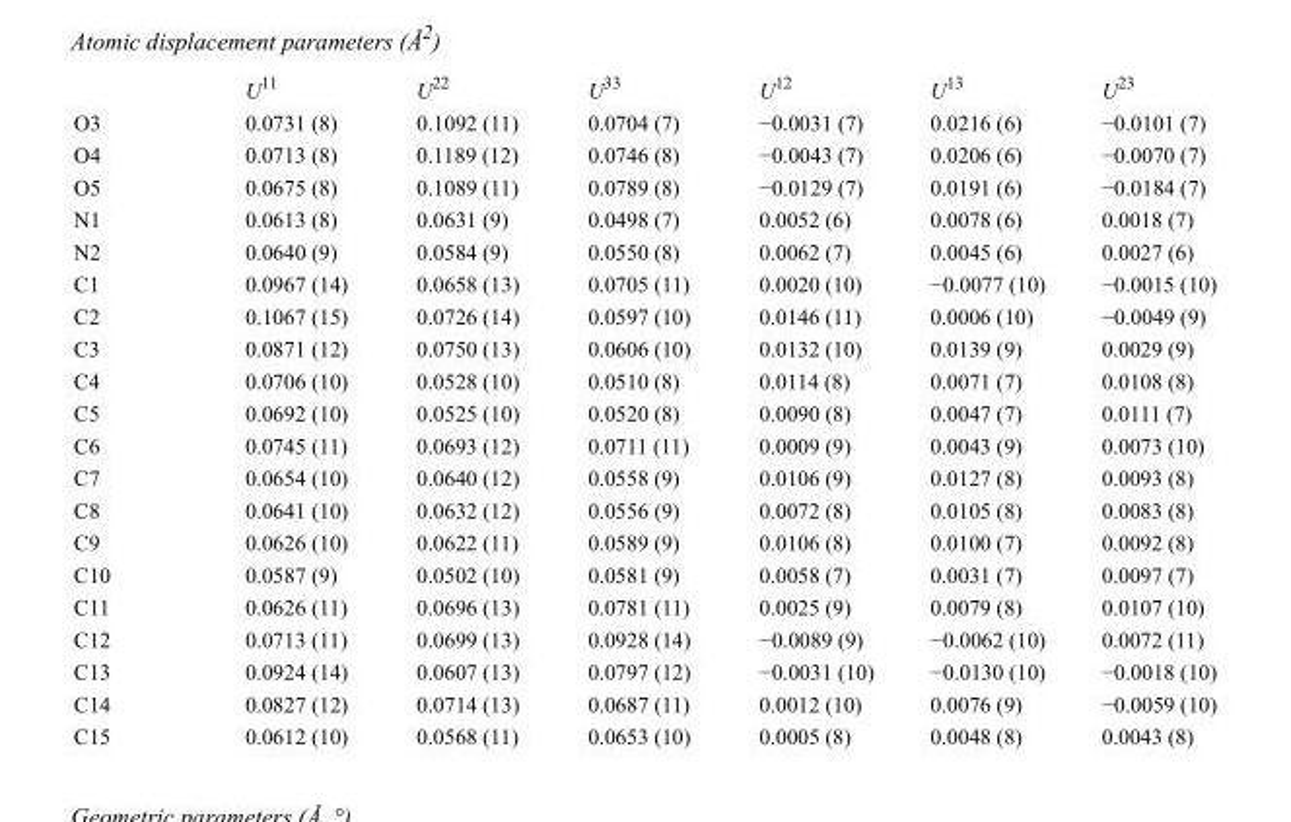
<table><thead><tr><td></td><td>U<sup>11</sup></td><td>U<sup>22</sup></td><td>U<sup>33</sup></td><td>U<sup>12</sup></td><td>U<sup>13</sup></td><td>U<sup>23</sup></td></tr></thead><tbody><tr><td>O3</td><td>0.0731 (8)</td><td>0.1092 (11)</td><td>0.0704 (7)</td><td>−0.0031 (7)</td><td>0.0216 (6)</td><td>−0.0101 (7)</td></tr><tr><td>O4</td><td>0.0713 (8)</td><td>0.1189 (12)</td><td>0.0746 (8)</td><td>−0.0043 (7)</td><td>0.0206 (6)</td><td>−0.0070 (7)</td></tr><tr><td>O5</td><td>0.0675 (8)</td><td>0.1089 (11)</td><td>0.0789 (8)</td><td>−0.0129 (7)</td><td>0.0191 (6)</td><td>−0.0184 (7)</td></tr><tr><td>N1</td><td>0.0613 (8)</td><td>0.0631 (9)</td><td>0.0498 (7)</td><td>0.0052 (6)</td><td>0.0078 (6)</td><td>0.0018 (7)</td></tr><tr><td>N2</td><td>0.0640 (9)</td><td>0.0584 (9)</td><td>0.0550 (8)</td><td>0.0062 (7)</td><td>0.0045 (6)</td><td>0.0027 (6)</td></tr><tr><td>C1</td><td>0.0967 (14)</td><td>0.0658 (13)</td><td>0.0705 (11)</td><td>0.0020 (10)</td><td>−0.0077 (10)</td><td>−0.0015 (10)</td></tr><tr><td>C2</td><td>0.1067 (15)</td><td>0.0726 (14)</td><td>0.0597 (10)</td><td>0.0146 (11)</td><td>0.0006 (10)</td><td>−0.0049 (9)</td></tr><tr><td>C3</td><td>0.0871 (12)</td><td>0.0750 (13)</td><td>0.0606 (10)</td><td>0.0132 (10)</td><td>0.0139 (9)</td><td>0.0029 (9)</td></tr><tr><td>C4</td><td>0.0706 (10)</td><td>0.0528 (10)</td><td>0.0510 (8)</td><td>0.0114 (8)</td><td>0.0071 (7)</td><td>0.0108 (8)</td></tr><tr><td>C5</td><td>0.0692 (10)</td><td>0.0525 (10)</td><td>0.0520 (8)</td><td>0.0090 (8)</td><td>0.0047 (7)</td><td>0.0111 (7)</td></tr><tr><td>C6</td><td>0.0745 (11)</td><td>0.0693 (12)</td><td>0.0711 (11)</td><td>0.0009 (9)</td><td>0.0043 (9)</td><td>0.0073 (10)</td></tr><tr><td>C7</td><td>0.0654 (10)</td><td>0.0640 (12)</td><td>0.0558 (9)</td><td>0.0106 (9)</td><td>0.0127 (8)</td><td>0.0093 (8)</td></tr><tr><td>C8</td><td>0.0641 (10)</td><td>0.0632 (12)</td><td>0.0556 (9)</td><td>0.0072 (8)</td><td>0.0105 (8)</td><td>0.0083 (8)</td></tr><tr><td>C9</td><td>0.0626 (10)</td><td>0.0622 (11)</td><td>0.0589 (9)</td><td>0.0106 (8)</td><td>0.0100 (7)</td><td>0.0092 (8)</td></tr><tr><td>C10</td><td>0.0587 (9)</td><td>0.0502 (10)</td><td>0.0581 (9)</td><td>0.0058 (7)</td><td>0.0031 (7)</td><td>0.0097 (7)</td></tr><tr><td>C11</td><td>0.0626 (11)</td><td>0.0696 (13)</td><td>0.0781 (11)</td><td>0.0025 (9)</td><td>0.0079 (8)</td><td>0.0107 (10)</td></tr><tr><td>C12</td><td>0.0713 (11)</td><td>0.0699 (13)</td><td>0.0928 (14)</td><td>−0.0089 (9)</td><td>−0.0062 (10)</td><td>0.0072 (11)</td></tr><tr><td>C13</td><td>0.0924 (14)</td><td>0.0607 (13)</td><td>0.0797 (12)</td><td>−0.0031 (10)</td><td>−0.0130 (10)</td><td>−0.0018 (10)</td></tr><tr><td>C14</td><td>0.0827 (12)</td><td>0.0714 (13)</td><td>0.0687 (11)</td><td>0.0012 (10)</td><td>0.0076 (9)</td><td>−0.0059 (10)</td></tr><tr><td>C15</td><td>0.0612 (10)</td><td>0.0568 (11)</td><td>0.0653 (10)</td><td>0.0005 (8)</td><td>0.0048 (8)</td><td>0.0043 (8)</td></tr></tbody></table>